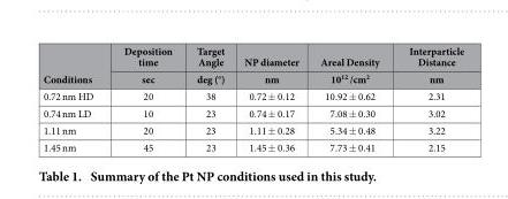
<table><thead><tr><td rowspan="2">Conditions</td><td rowspan="2">Deposition time sec</td><td rowspan="2">Target Angle deg (°)</td><td rowspan="2">NP diameter nm</td><td rowspan="2">Areal Density 10<sup>12</sup> /cm<sup>2</sup></td><td rowspan="2">Interparticle Distance nm</td></tr><tr></tr></thead><tbody><tr><td>0.72 nm HD</td><td>20</td><td>38</td><td>0.72 ± 0.12</td><td>10.92 ± 0.62</td><td>2.31</td></tr><tr><td>0.74 nm LD</td><td>10</td><td>23</td><td>0.74 ± 0.17</td><td>7.08 ± 0.30</td><td>3.02</td></tr><tr><td>1.11 nm</td><td>20</td><td>23</td><td>1.11 ± 0.28</td><td>5.34 ± 0.48</td><td>3.22</td></tr><tr><td>1.45 nm</td><td>45</td><td>23</td><td>1.45 ± 0.36</td><td>7.73 ± 0.41</td><td>2.15</td></tr></tbody></table>